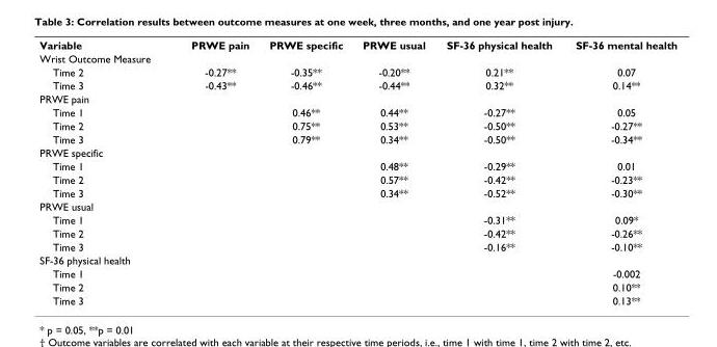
<table><tbody><tr><td>Variable</td><td>PRWE pain</td><td>PRWE specific</td><td>PRWE usual</td><td>SF-36 physical health</td><td>SF-36 mental health</td></tr><tr><td colspan="6">Wrist Outcome Measure</td></tr><tr><td>Time 2</td><td>-0.27**</td><td>-0.35**</td><td>-0.20**</td><td>0.21**</td><td>0.07</td></tr><tr><td>Time 3</td><td>-0.43**</td><td>-0.46**</td><td>-0.44**</td><td>0.32**</td><td>0.14**</td></tr><tr><td colspan="6">PRWE pain</td></tr><tr><td>Time 1</td><td></td><td>0.46**</td><td>0.44**</td><td>-0.27**</td><td>0.05</td></tr><tr><td>Time 2</td><td></td><td>0.75**</td><td>0.53**</td><td>-0.50**</td><td>-0.27**</td></tr><tr><td>Time 3</td><td></td><td>0.79**</td><td>0.34**</td><td>-0.50**</td><td>-0.34**</td></tr><tr><td colspan="6">PRWE specific</td></tr><tr><td>Time 1</td><td></td><td></td><td>0.48**</td><td>-0.29**</td><td>0.01</td></tr><tr><td>Time 2</td><td></td><td></td><td>0.57**</td><td>-0.42**</td><td>-0.23**</td></tr><tr><td>Time 3</td><td></td><td></td><td>0.34**</td><td>-0.52**</td><td>-0.30**</td></tr><tr><td colspan="6">PRWE usual</td></tr><tr><td>Time 1</td><td></td><td></td><td></td><td>-0.31**</td><td>0.09*</td></tr><tr><td>Time 2</td><td></td><td></td><td></td><td>-0.42**</td><td>-0.26**</td></tr><tr><td>Time 3</td><td></td><td></td><td></td><td>-0.16**</td><td>-0.10**</td></tr><tr><td colspan="6">SF-36 physical health</td></tr><tr><td>Time 1</td><td></td><td></td><td></td><td></td><td>-0.002</td></tr><tr><td>Time 2</td><td></td><td></td><td></td><td></td><td>0.10**</td></tr><tr><td>Time 3</td><td></td><td></td><td></td><td></td><td>0.13**</td></tr></tbody></table>